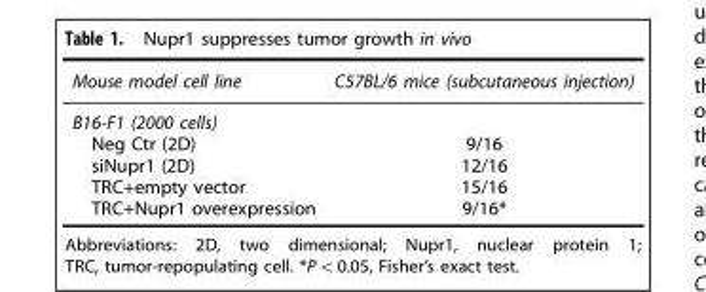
<table><thead><tr><td>Mouse model cell line</td><td>C57BL/6 mice (subcutaneous injection)</td></tr></thead><tbody><tr><td colspan="2">B16-F1 (2000 cells)</td></tr><tr><td>Neg Ctr (2D)</td><td>9/16</td></tr><tr><td>siNupr1 (2D)</td><td>12/16</td></tr><tr><td>TRC+empty vector</td><td>15/16</td></tr><tr><td>TRC+Nupr1 overexpression</td><td>9/16*</td></tr></tbody></table>